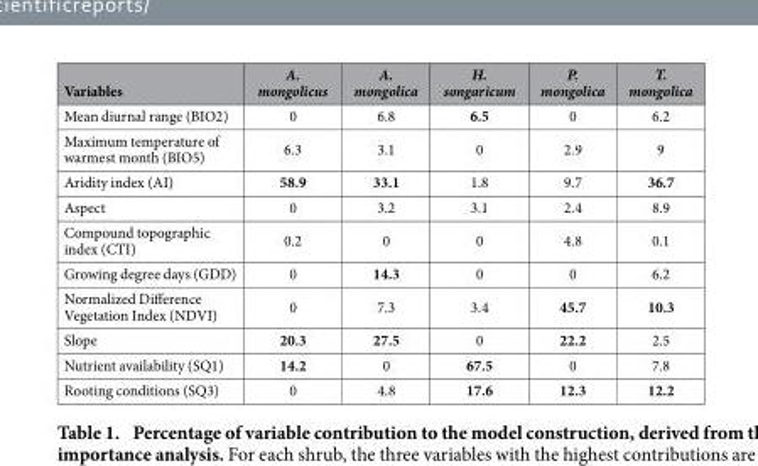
<table><thead><tr><td>Variables</td><td>A. mongolicus</td><td>A. mongolica</td><td>H. songaricum</td><td>P. mongolica</td><td>T. mongolica</td></tr></thead><tbody><tr><td>Mean diurnal range (BIO2)</td><td>0</td><td>6.8</td><td>6.5</td><td>0</td><td>6.2</td></tr><tr><td>Maximum temperature of warmest month (BIO5)</td><td>6.3</td><td>3.1</td><td>0</td><td>2.9</td><td>9</td></tr><tr><td>Aridity index (AI)</td><td>58.9</td><td>33.1</td><td>1.8</td><td>9.7</td><td>36.7</td></tr><tr><td>Aspect</td><td>0</td><td>3.2</td><td>3.1</td><td>2.4</td><td>8.9</td></tr><tr><td>Compound topographic index (CTI)</td><td>0.2</td><td>0</td><td>0</td><td>4.8</td><td>0.1</td></tr><tr><td>Growing degree days (GDD)</td><td>0</td><td>14.3</td><td>0</td><td>0</td><td>6.2</td></tr><tr><td>Normalized Difference Vegetation Index (NDVI)</td><td>0</td><td>7.3</td><td>3.4</td><td>45.7</td><td>10.3</td></tr><tr><td>Slope</td><td>20.3</td><td>27.5</td><td>0</td><td>22.2</td><td>2.5</td></tr><tr><td>Nutrient availability (SQ1)</td><td>14.2</td><td>0</td><td>67.5</td><td>0</td><td>7.8</td></tr><tr><td>Rooting conditions (SQ3)</td><td>0</td><td>4.8</td><td>17.6</td><td>12.3</td><td>12.2</td></tr></tbody></table>